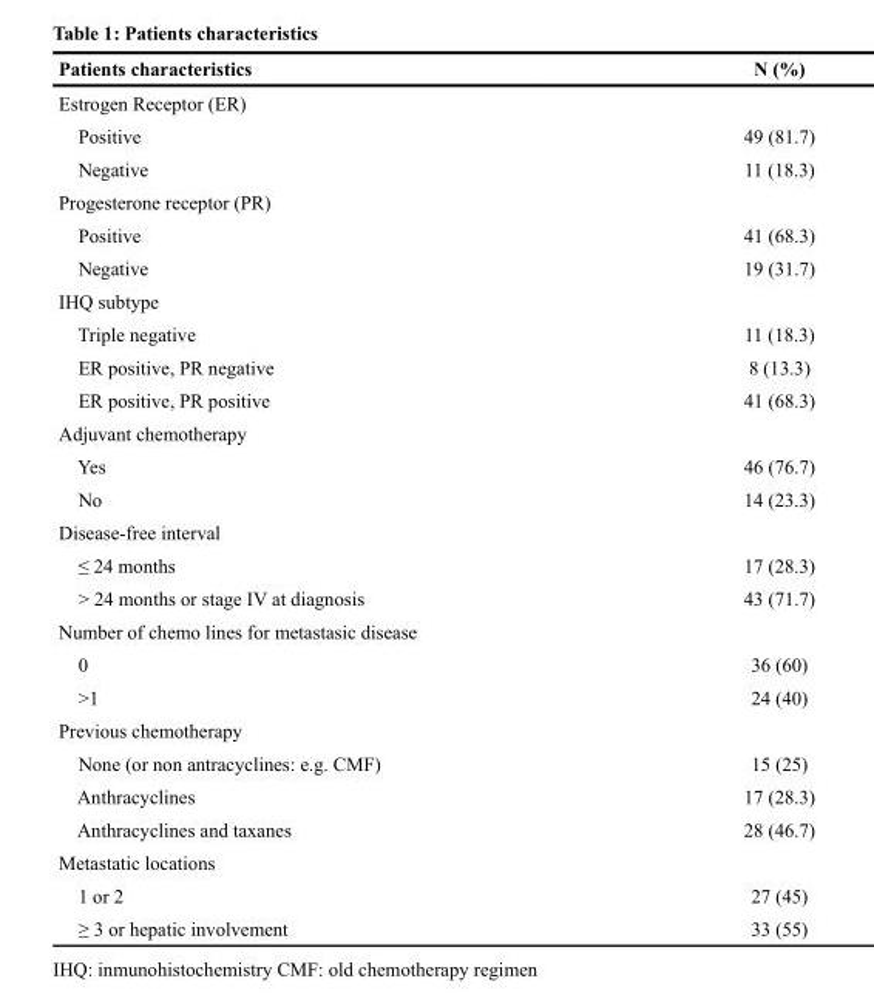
<table><thead><tr><td>Patients characteristics</td><td>N (%)</td></tr></thead><tbody><tr><td colspan="2">Estrogen Receptor (ER)</td></tr><tr><td>Positive</td><td>49 (81.7)</td></tr><tr><td>Negative</td><td>11 (18.3)</td></tr><tr><td colspan="2">Progesterone receptor (PR)</td></tr><tr><td>Positive</td><td>41 (68.3)</td></tr><tr><td>Negative</td><td>19 (31.7)</td></tr><tr><td colspan="2">IHQ subtype</td></tr><tr><td>Triple negative</td><td>11 (18.3)</td></tr><tr><td>ER positive, PR negative</td><td>8 (13.3)</td></tr><tr><td>ER positive, PR positive</td><td>41 (68.3)</td></tr><tr><td colspan="2">Adjuvant chemotherapy</td></tr><tr><td>Yes</td><td>46 (76.7)</td></tr><tr><td>No</td><td>14 (23.3)</td></tr><tr><td colspan="2">Disease-free interval</td></tr><tr><td>≤ 24 months</td><td>17 (28.3)</td></tr><tr><td>&gt; 24 months or stage IV at diagnosis</td><td>43 (71.7)</td></tr><tr><td colspan="2">Number of chemo lines for metastasic disease</td></tr><tr><td>0</td><td>36 (60)</td></tr><tr><td>&gt;1</td><td>24 (40)</td></tr><tr><td colspan="2">Previous chemotherapy</td></tr><tr><td>None (or non antracyclines: e.g. CMF)</td><td>15 (25)</td></tr><tr><td>Anthracyclines</td><td>17 (28.3)</td></tr><tr><td>Anthracyclines and taxanes</td><td>28 (46.7)</td></tr><tr><td colspan="2">Metastatic locations</td></tr><tr><td>1 or 2</td><td>27 (45)</td></tr><tr><td>≥ 3 or hepatic involvement</td><td>33 (55)</td></tr></tbody></table>